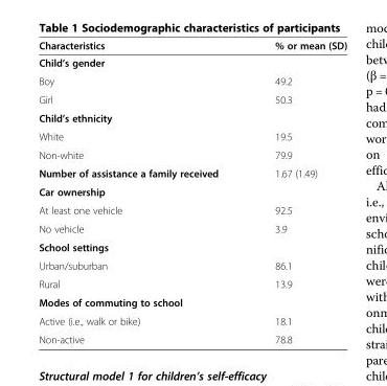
<table><thead><tr><td>Characteristics</td><td>% or mean (SD)</td></tr></thead><tbody><tr><td colspan="2">Child’s gender</td></tr><tr><td>Boy</td><td>49.2</td></tr><tr><td>Girl</td><td>50.3</td></tr><tr><td colspan="2">Child’s ethnicity</td></tr><tr><td>White</td><td>19.5</td></tr><tr><td>Non-white</td><td>79.9</td></tr><tr><td>Number of assistance a family received</td><td>1.67 (1.49)</td></tr><tr><td colspan="2">Car ownership</td></tr><tr><td>At least one vehicle</td><td>92.5</td></tr><tr><td>No vehicle</td><td>3.9</td></tr><tr><td colspan="2">School settings</td></tr><tr><td>Urban/suburban</td><td>86.1</td></tr><tr><td>Rural</td><td>13.9</td></tr><tr><td colspan="2">Modes of commuting to school</td></tr><tr><td>Active (i.e., walk or bike)</td><td>18.1</td></tr><tr><td>Non-active</td><td>78.8</td></tr></tbody></table>